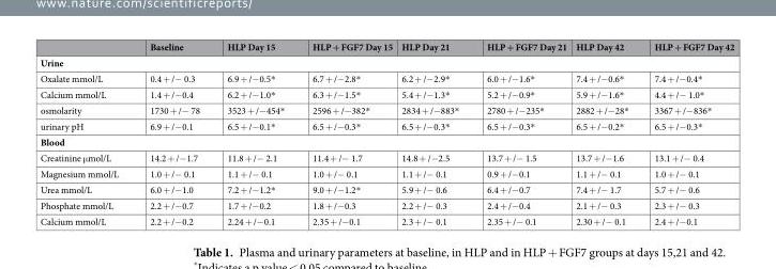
<table><thead><tr><td></td><td>Baseline</td><td>HLP Day 15</td><td>HLP + FGF7 Day 15</td><td>HLP Day 21</td><td>HLP + FGF7 Day 21</td><td>HLP Day 42</td><td>HLP + FGF7 Day 42</td></tr></thead><tbody><tr><td colspan="8">Urine</td></tr><tr><td>Oxalate mmol/L</td><td>0.4 + /− 0.3</td><td>6.9 + /−0.5*</td><td>6.7 + /−2.8*</td><td>6.2 + /−2.9*</td><td>6.0 + /−1.6*</td><td>7.4 + /−0.6*</td><td>7.4 + /−0.4*</td></tr><tr><td>Calcium mmol/L</td><td>1.4 + /−0.4</td><td>6.2 + /−1.0*</td><td>6.3 + /−1.5*</td><td>5.4 + /−1.3*</td><td>5.2 + /−0.9*</td><td>5.9 + /−1.6*</td><td>4.4 + /− 1.0*</td></tr><tr><td>osmolarity</td><td>1730 + /− 78</td><td>3523 + /−454*</td><td>2596 + /−382*</td><td>2834 + /−883*</td><td>2780 + /−235*</td><td>2882 + /−28*</td><td>3367 + /−836*</td></tr><tr><td>urinary pH</td><td>6.9 + /−0.1</td><td>6.5 + /−0.1*</td><td>6.5 + /−0.3*</td><td>6.5 + /−0.3*</td><td>6.5 + /−0.3*</td><td>6.5 + /−0.2*</td><td>6.5 + /−0.3*</td></tr><tr><td colspan="8">Blood</td></tr><tr><td>Creatinine μmol/L</td><td>14.2 + /−1.7</td><td>11.8 + /− 2.1</td><td>11.4 + /− 1.7</td><td>14.8 + /−2.5</td><td>13.7 + /− 1.5</td><td>13.7 + /−1.6</td><td>13.1 + /− 0.4</td></tr><tr><td>Magnesium mmol/L</td><td>1.0 + /− 0.1</td><td>1.1 + /− 0.1</td><td>1.0 + /− 0.1</td><td>1.1 + /− 0.1</td><td>0.9 + /−0.1</td><td>1.1 + /− 0.1</td><td>1.0 + /− 0.1</td></tr><tr><td>Urea mmol/L</td><td>6.0 + /−1.0</td><td>7.2 + /−1.2*</td><td>9.0 + /−1.2*</td><td>5.9 + /− 0.6</td><td>6.4 + /−0.7</td><td>7.4 + /− 1.7</td><td>5.7 + /− 0.6</td></tr><tr><td>Phosphate mmol/L</td><td>2.2 + /−0.7</td><td>1.7 + /−0.2</td><td>1.8 + /−0.3</td><td>2.2 + /− 0.3</td><td>2.4 + /−0.4</td><td>2.1 + /− 0.3</td><td>2.3 + /− 0.3</td></tr><tr><td>Calcium mmol/L</td><td>2.2 + /−0.2</td><td>2.24 + /−0.1</td><td>2.35 + /−0.1</td><td>2.3 + /− 0.1</td><td>2.35 + /− 0.1</td><td>2.30 + /− 0.1</td><td>2.4 + /−0.1</td></tr></tbody></table>